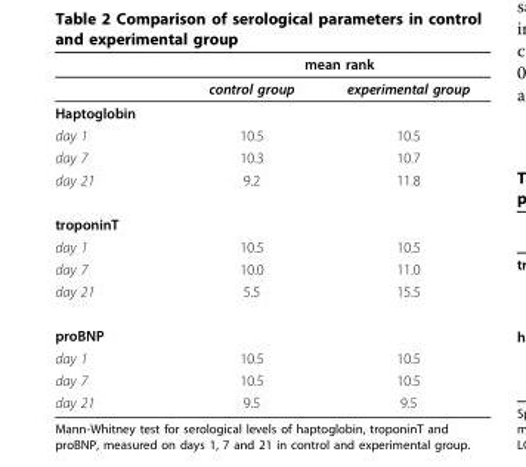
<table><thead><tr><td rowspan="2"></td><td colspan="2">mean rank</td></tr><tr><td>control group</td><td>experimental group</td></tr></thead><tbody><tr><td colspan="3">Haptoglobin</td></tr><tr><td>day 1</td><td>10.5</td><td>10.5</td></tr><tr><td>day 7</td><td>10.3</td><td>10.7</td></tr><tr><td>day 21</td><td>9.2</td><td>11.8</td></tr><tr><td colspan="3">troponinT</td></tr><tr><td>day 1</td><td>10.5</td><td>10.5</td></tr><tr><td>day 7</td><td>10.0</td><td>11.0</td></tr><tr><td>day 21</td><td>5.5</td><td>15.5</td></tr><tr><td colspan="3">proBNP</td></tr><tr><td>day 1</td><td>10.5</td><td>10.5</td></tr><tr><td>day 7</td><td>10.5</td><td>10.5</td></tr><tr><td>day 21</td><td>9.5</td><td>9.5</td></tr></tbody></table>